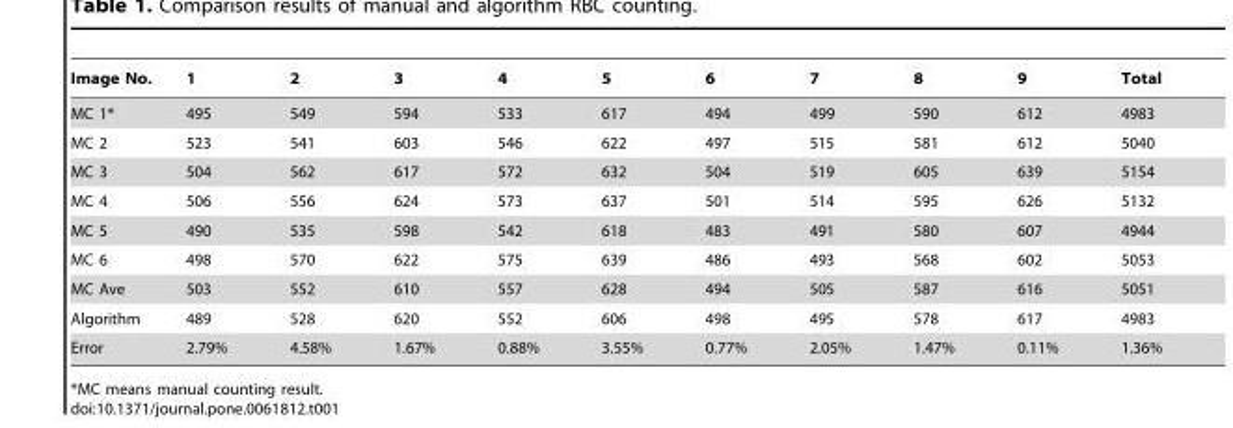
<table><thead><tr><td>Image No.</td><td>1</td><td>2</td><td>3</td><td>4</td><td>5</td><td>6</td><td>7</td><td>8</td><td>9</td><td>Total</td></tr></thead><tbody><tr><td>MC 1*</td><td>495</td><td>549</td><td>594</td><td>533</td><td>617</td><td>494</td><td>499</td><td>590</td><td>612</td><td>4983</td></tr><tr><td>MC 2</td><td>523</td><td>541</td><td>603</td><td>546</td><td>622</td><td>497</td><td>515</td><td>581</td><td>612</td><td>5040</td></tr><tr><td>MC 3</td><td>504</td><td>562</td><td>617</td><td>572</td><td>632</td><td>504</td><td>519</td><td>605</td><td>639</td><td>5154</td></tr><tr><td>MC 4</td><td>506</td><td>556</td><td>624</td><td>573</td><td>637</td><td>501</td><td>514</td><td>595</td><td>626</td><td>5132</td></tr><tr><td>MC 5</td><td>490</td><td>535</td><td>598</td><td>542</td><td>618</td><td>483</td><td>491</td><td>580</td><td>607</td><td>4944</td></tr><tr><td>MC 6</td><td>498</td><td>570</td><td>622</td><td>575</td><td>639</td><td>486</td><td>493</td><td>568</td><td>602</td><td>5053</td></tr><tr><td>MC Ave</td><td>503</td><td>552</td><td>610</td><td>557</td><td>628</td><td>494</td><td>505</td><td>587</td><td>616</td><td>5051</td></tr><tr><td>Algorithm</td><td>489</td><td>528</td><td>620</td><td>552</td><td>606</td><td>498</td><td>495</td><td>578</td><td>617</td><td>4983</td></tr><tr><td>Error</td><td>2.79%</td><td>4.58%</td><td>1.67%</td><td>0.88%</td><td>3.55%</td><td>0.77%</td><td>2.05%</td><td>1.47%</td><td>0.11%</td><td>1.36%</td></tr></tbody></table>